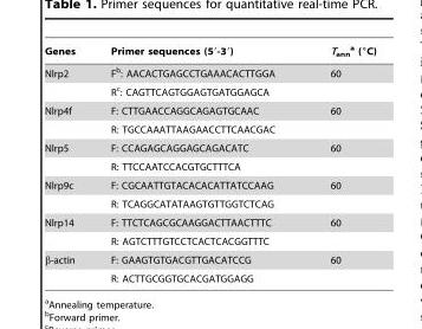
<table><thead><tr><td>Genes</td><td>Primer sequences (5′-3′)</td><td>T<sub>ann</sub> a (°C)</td></tr></thead><tbody><tr><td rowspan="2">Nlrp2</td><td>F<sup>b</sup>: AACACTGAGCCTGAAACACTTGGA</td><td>60</td></tr><tr><td>R<sup>c</sup>: CAGTTCAGTGGAGTGATGGAGCA</td><td></td></tr><tr><td rowspan="2">Nlrp4f</td><td>F: CTTGAACCAGGCAGAGTGCAAC</td><td>60</td></tr><tr><td>R: TGCCAAATTAAGAACCTTCAACGAC</td><td></td></tr><tr><td rowspan="2">Nlrp5</td><td>F: CCAGAGCAGGAGCAGACATC</td><td>60</td></tr><tr><td>R: TTCCAATCCACGTGCTTTCA</td><td></td></tr><tr><td rowspan="2">Nlrp9c</td><td>F: CGCAATTGTACACACATTATCCAAG</td><td>60</td></tr><tr><td>R: TCAGGCATATAAGTGTTGGTCTCAG</td><td></td></tr><tr><td rowspan="2">Nlrp14</td><td>F: TTCTCAGCGCAAGGACTTAACTTTC</td><td>60</td></tr><tr><td>R: AGTCTTTGTCCTCACTCACGGTTTC</td><td></td></tr><tr><td rowspan="2">β-actin</td><td>F: GAAGTGTGACGTTGACATCCG</td><td>60</td></tr><tr><td>R: ACTTGCGGTGCACGATGGAGG</td><td></td></tr></tbody></table>